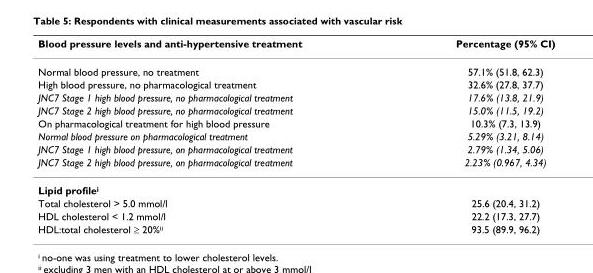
<table><thead><tr><td>Blood pressure levels and anti-hypertensive treatment</td><td>Percentage (95% CI)</td></tr></thead><tbody><tr><td>Normal blood pressure, no treatment</td><td>57.1% (51.8, 62.3)</td></tr><tr><td>High blood pressure, no pharmacological treatment</td><td>32.6% (27.8, 37.7)</td></tr><tr><td>JNC7 Stage 1 high blood pressure, no pharmacological treatment</td><td>17.6% (13.8, 21.9)</td></tr><tr><td>JNC7 Stage 2 high blood pressure, no pharmacological treatment</td><td>15.0% (11.5, 19.2)</td></tr><tr><td>On pharmacological treatment for high blood pressure</td><td>10.3% (7.3, 13.9)</td></tr><tr><td>Normal blood pressure on pharmacological treatment</td><td>5.29% (3.21, 8.14)</td></tr><tr><td>JNC7 Stage 1 high blood pressure, on pharmacological treatment</td><td>2.79% (1.34, 5.06)</td></tr><tr><td>JNC7 Stage 2 high blood pressure, on pharmacological treatment</td><td>2.23% (0.967, 4.34)</td></tr><tr><td colspan="2">Lipid profile<sup>i</sup></td></tr><tr><td>Total cholesterol &gt; 5.0 mmol/l</td><td>25.6 (20.4, 31.2)</td></tr><tr><td>HDL cholesterol &lt; 1.2 mmol/l</td><td>22.2 (17.3, 27.7)</td></tr><tr><td>HDL:total cholesterol ≥ 20%<sup>ii</sup></td><td>93.5 (89.9, 96.2)</td></tr></tbody></table>